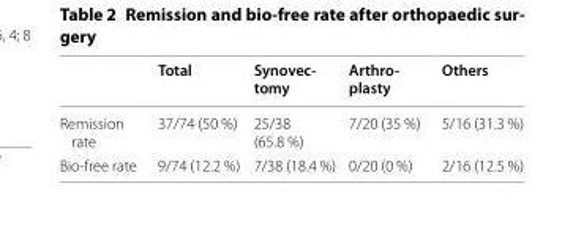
<table><thead><tr><td></td><td>Total</td><td>Synovec- tomy</td><td>Arthro- plasty</td><td>Others</td></tr></thead><tbody><tr><td>Remission rate</td><td>37/74 (50 %)</td><td>25/38 (65.8 %)</td><td>7/20 (35 %)</td><td>5/16 (31.3 %)</td></tr><tr><td>Bio-free rate</td><td>9/74 (12.2 %)</td><td>7/38 (18.4 %)</td><td>0/20 (0 %)</td><td>2/16 (12.5 %)</td></tr></tbody></table>